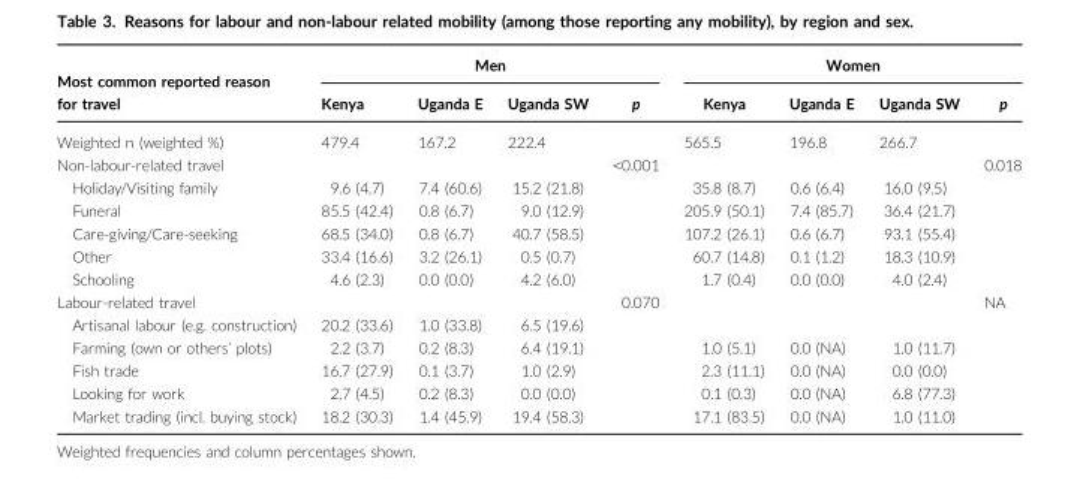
<table><thead><tr><td rowspan="2">Most common reported reason for travel</td><td colspan="4">Men</td><td colspan="4">Women</td></tr><tr><td>Kenya</td><td>Uganda E</td><td>Uganda SW</td><td>p</td><td>Kenya</td><td>Uganda E</td><td>Uganda SW</td><td>p</td></tr></thead><tbody><tr><td>Weighted n (weighted %)</td><td>479.4</td><td>167.2</td><td>222.4</td><td></td><td>565.5</td><td>196.8</td><td>266.7</td><td></td></tr><tr><td>Non-labour-related travel</td><td></td><td></td><td></td><td>&lt;0.001</td><td></td><td></td><td></td><td>0.018</td></tr><tr><td>Holiday/Visiting family</td><td>9.6 (4.7)</td><td>7.4 (60.6)</td><td>15.2 (21.8)</td><td></td><td>35.8 (8.7)</td><td>0.6 (6.4)</td><td>16.0 (9.5)</td><td></td></tr><tr><td>Funeral</td><td>85.5 (42.4)</td><td>0.8 (6.7)</td><td>9.0 (12.9)</td><td></td><td>205.9 (50.1)</td><td>7.4 (85.7)</td><td>36.4 (21.7)</td><td></td></tr><tr><td>Care-giving/Care-seeking</td><td>68.5 (34.0)</td><td>0.8 (6.7)</td><td>40.7 (58.5)</td><td></td><td>107.2 (26.1)</td><td>0.6 (6.7)</td><td>93.1 (55.4)</td><td></td></tr><tr><td>Other</td><td>33.4 (16.6)</td><td>3.2 (26.1)</td><td>0.5 (0.7)</td><td></td><td>60.7 (14.8)</td><td>0.1 (1.2)</td><td>18.3 (10.9)</td><td></td></tr><tr><td>Schooling</td><td>4.6 (2.3)</td><td>0.0 (0.0)</td><td>4.2 (6.0)</td><td></td><td>1.7 (0.4)</td><td>0.0 (0.0)</td><td>4.0 (2.4)</td><td></td></tr><tr><td>Labour-related travel</td><td></td><td></td><td></td><td>0.070</td><td></td><td></td><td></td><td>NA</td></tr><tr><td>Artisanal labour (e.g. construction)</td><td>20.2 (33.6)</td><td>1.0 (33.8)</td><td>6.5 (19.6)</td><td></td><td></td><td></td><td></td><td></td></tr><tr><td>Farming (own or others’ plots)</td><td>2.2 (3.7)</td><td>0.2 (8.3)</td><td>6.4 (19.1)</td><td></td><td>1.0 (5.1)</td><td>0.0 (NA)</td><td>1.0 (11.7)</td><td></td></tr><tr><td>Fish trade</td><td>16.7 (27.9)</td><td>0.1 (3.7)</td><td>1.0 (2.9)</td><td></td><td>2.3 (11.1)</td><td>0.0 (NA)</td><td>0.0 (0.0)</td><td></td></tr><tr><td>Looking for work</td><td>2.7 (4.5)</td><td>0.2 (8.3)</td><td>0.0 (0.0)</td><td></td><td>0.1 (0.3)</td><td>0.0 (NA)</td><td>6.8 (77.3)</td><td></td></tr><tr><td>Market trading (incl. buying stock)</td><td>18.2 (30.3)</td><td>1.4 (45.9)</td><td>19.4 (58.3)</td><td></td><td>17.1 (83.5)</td><td>0.0 (NA)</td><td>1.0 (11.0)</td><td></td></tr></tbody></table>